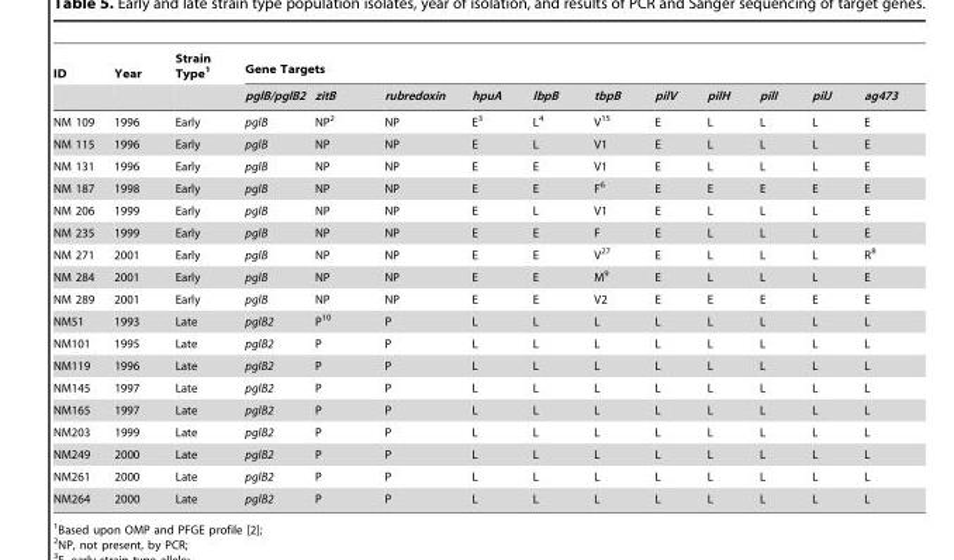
<table><thead><tr><td rowspan="2">ID</td><td rowspan="2">Year</td><td rowspan="2">Strain Type<sup>1</sup></td><td colspan="11">Gene Targets</td></tr><tr><td>pglB/pglB2</td><td>zitB</td><td>rubredoxin</td><td>hpuA</td><td>lbpB</td><td>tbpB</td><td>pilV</td><td>pilH</td><td>pilI</td><td>pilJ</td><td>ag473</td></tr></thead><tbody><tr><td>NM 109</td><td>1996</td><td>Early</td><td>pglB</td><td>NP<sup>2</sup></td><td>NP</td><td>E<sup>3</sup></td><td>L<sup>4</sup></td><td>V<sup>15</sup></td><td>E</td><td>L</td><td>L</td><td>L</td><td>E</td></tr><tr><td>NM 115</td><td>1996</td><td>Early</td><td>pglB</td><td>NP</td><td>NP</td><td>E</td><td>L</td><td>V1</td><td>E</td><td>L</td><td>L</td><td>L</td><td>E</td></tr><tr><td>NM 131</td><td>1996</td><td>Early</td><td>pglB</td><td>NP</td><td>NP</td><td>E</td><td>E</td><td>V1</td><td>E</td><td>L</td><td>L</td><td>L</td><td>E</td></tr><tr><td>NM 187</td><td>1998</td><td>Early</td><td>pglB</td><td>NP</td><td>NP</td><td>E</td><td>E</td><td>F<sup>6</sup></td><td>E</td><td>E</td><td>E</td><td>E</td><td>E</td></tr><tr><td>NM 206</td><td>1999</td><td>Early</td><td>pglB</td><td>NP</td><td>NP</td><td>E</td><td>L</td><td>V1</td><td>E</td><td>L</td><td>L</td><td>L</td><td>E</td></tr><tr><td>NM 235</td><td>1999</td><td>Early</td><td>pglB</td><td>NP</td><td>NP</td><td>E</td><td>E</td><td>F</td><td>E</td><td>L</td><td>L</td><td>L</td><td>E</td></tr><tr><td>NM 271</td><td>2001</td><td>Early</td><td>pglB</td><td>NP</td><td>NP</td><td>E</td><td>E</td><td>V<sup>27</sup></td><td>E</td><td>L</td><td>L</td><td>L</td><td>R<sup>8</sup></td></tr><tr><td>NM 284</td><td>2001</td><td>Early</td><td>pglB</td><td>NP</td><td>NP</td><td>E</td><td>E</td><td>M<sup>9</sup></td><td>E</td><td>L</td><td>L</td><td>L</td><td>E</td></tr><tr><td>NM 289</td><td>2001</td><td>Early</td><td>pglB</td><td>NP</td><td>NP</td><td>E</td><td>E</td><td>V2</td><td>E</td><td>E</td><td>E</td><td>E</td><td>E</td></tr><tr><td>NM51</td><td>1993</td><td>Late</td><td>pglB2</td><td>P<sup>10</sup></td><td>P</td><td>L</td><td>L</td><td>L</td><td>L</td><td>L</td><td>L</td><td>L</td><td>L</td></tr><tr><td>NM101</td><td>1995</td><td>Late</td><td>pglB2</td><td>P</td><td>P</td><td>L</td><td>L</td><td>L</td><td>L</td><td>L</td><td>L</td><td>L</td><td>L</td></tr><tr><td>NM119</td><td>1996</td><td>Late</td><td>pglB2</td><td>P</td><td>P</td><td>L</td><td>L</td><td>L</td><td>L</td><td>L</td><td>L</td><td>L</td><td>L</td></tr><tr><td>NM145</td><td>1997</td><td>Late</td><td>pglB2</td><td>P</td><td>P</td><td>L</td><td>L</td><td>L</td><td>L</td><td>L</td><td>L</td><td>L</td><td>L</td></tr><tr><td>NM165</td><td>1997</td><td>Late</td><td>pglB2</td><td>P</td><td>P</td><td>L</td><td>L</td><td>L</td><td>L</td><td>L</td><td>L</td><td>L</td><td>L</td></tr><tr><td>NM203</td><td>1999</td><td>Late</td><td>pglB2</td><td>P</td><td>P</td><td>L</td><td>L</td><td>L</td><td>L</td><td>L</td><td>L</td><td>L</td><td>L</td></tr><tr><td>NM249</td><td>2000</td><td>Late</td><td>pglB2</td><td>P</td><td>P</td><td>L</td><td>L</td><td>L</td><td>L</td><td>L</td><td>L</td><td>L</td><td>L</td></tr><tr><td>NM261</td><td>2000</td><td>Late</td><td>pglB2</td><td>P</td><td>P</td><td>L</td><td>L</td><td>L</td><td>L</td><td>L</td><td>L</td><td>L</td><td>L</td></tr><tr><td>NM264</td><td>2000</td><td>Late</td><td>pglB2</td><td>P</td><td>P</td><td>L</td><td>L</td><td>L</td><td>L</td><td>L</td><td>L</td><td>L</td><td>L</td></tr></tbody></table>